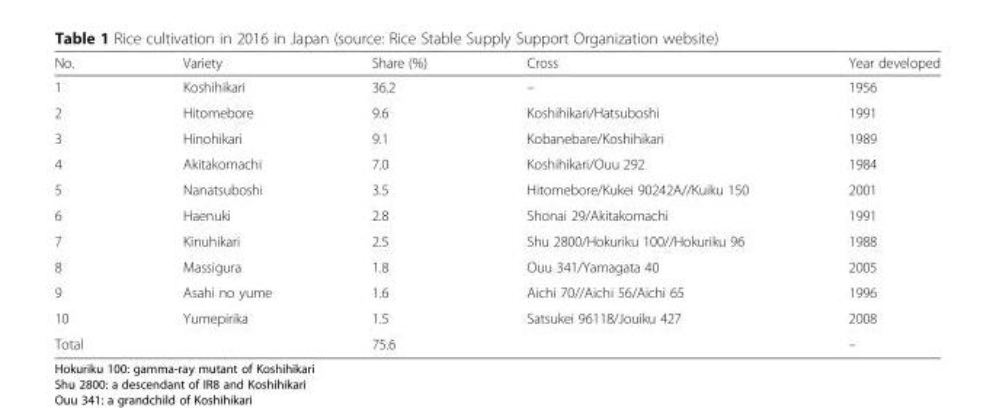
<table><thead><tr><td>No.</td><td>Variety</td><td>Share (%)</td><td>Cross</td><td>Year developed</td></tr></thead><tbody><tr><td>1</td><td>Koshihikari</td><td>36.2</td><td>–</td><td>1956</td></tr><tr><td>2</td><td>Hitomebore</td><td>9.6</td><td>Koshihikari/Hatsuboshi</td><td>1991</td></tr><tr><td>3</td><td>Hinohikari</td><td>9.1</td><td>Kobanebare/Koshihikari</td><td>1989</td></tr><tr><td>4</td><td>Akitakomachi</td><td>7.0</td><td>Koshihikari/Ouu 292</td><td>1984</td></tr><tr><td>5</td><td>Nanatsuboshi</td><td>3.5</td><td>Hitomebore/Kukei 90242A//Kuiku 150</td><td>2001</td></tr><tr><td>6</td><td>Haenuki</td><td>2.8</td><td>Shonai 29/Akitakomachi</td><td>1991</td></tr><tr><td>7</td><td>Kinuhikari</td><td>2.5</td><td>Shu 2800/Hokuriku 100//Hokuriku 96</td><td>1988</td></tr><tr><td>8</td><td>Massigura</td><td>1.8</td><td>Ouu 341/Yamagata 40</td><td>2005</td></tr><tr><td>9</td><td>Asahi no yume</td><td>1.6</td><td>Aichi 70//Aichi 56/Aichi 65</td><td>1996</td></tr><tr><td>10</td><td>Yumepirika</td><td>1.5</td><td>Satsukei 96118/Jouiku 427</td><td>2008</td></tr><tr><td>Total</td><td></td><td>75.6</td><td></td><td>–</td></tr></tbody></table>